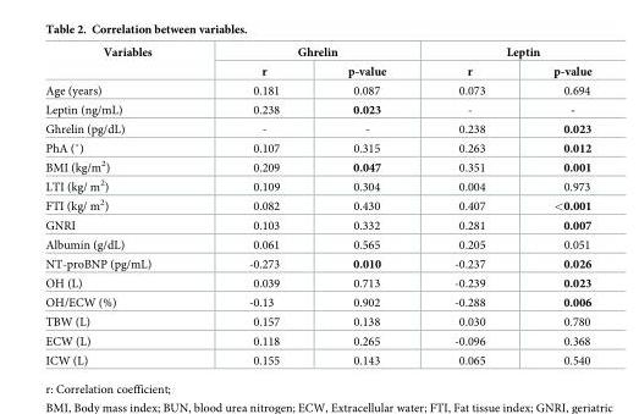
<table><thead><tr><td rowspan="2">Variables</td><td colspan="2">Ghrelin</td><td colspan="2">Leptin</td></tr><tr><td>r</td><td>p-value</td><td>r</td><td>p-value</td></tr></thead><tbody><tr><td>Age (years)</td><td>0.181</td><td>0.087</td><td>0.073</td><td>0.694</td></tr><tr><td>Leptin (ng/mL)</td><td>0.238</td><td>0.023</td><td>-</td><td>-</td></tr><tr><td>Ghrelin (pg/dL)</td><td>-</td><td>-</td><td>0.238</td><td>0.023</td></tr><tr><td>PhA (˚)</td><td>0.107</td><td>0.315</td><td>0.263</td><td>0.012</td></tr><tr><td>BMI (kg/m<sup>2</sup>)</td><td>0.209</td><td>0.047</td><td>0.351</td><td>0.001</td></tr><tr><td>LTI (kg/ m<sup>2</sup>)</td><td>0.109</td><td>0.304</td><td>0.004</td><td>0.973</td></tr><tr><td>FTI (kg/ m<sup>2</sup>)</td><td>0.082</td><td>0.430</td><td>0.407</td><td>&lt;0.001</td></tr><tr><td>GNRI</td><td>0.103</td><td>0.332</td><td>0.281</td><td>0.007</td></tr><tr><td>Albumin (g/dL)</td><td>0.061</td><td>0.565</td><td>0.205</td><td>0.051</td></tr><tr><td>NT-proBNP (pg/mL)</td><td>-0.273</td><td>0.010</td><td>-0.237</td><td>0.026</td></tr><tr><td>OH (L)</td><td>0.039</td><td>0.713</td><td>-0.239</td><td>0.023</td></tr><tr><td>OH/ECW (%)</td><td>-0.13</td><td>0.902</td><td>-0.288</td><td>0.006</td></tr><tr><td>TBW (L)</td><td>0.157</td><td>0.138</td><td>0.030</td><td>0.780</td></tr><tr><td>ECW (L)</td><td>0.118</td><td>0.265</td><td>-0.096</td><td>0.368</td></tr><tr><td>ICW (L)</td><td>0.155</td><td>0.143</td><td>0.065</td><td>0.540</td></tr></tbody></table>